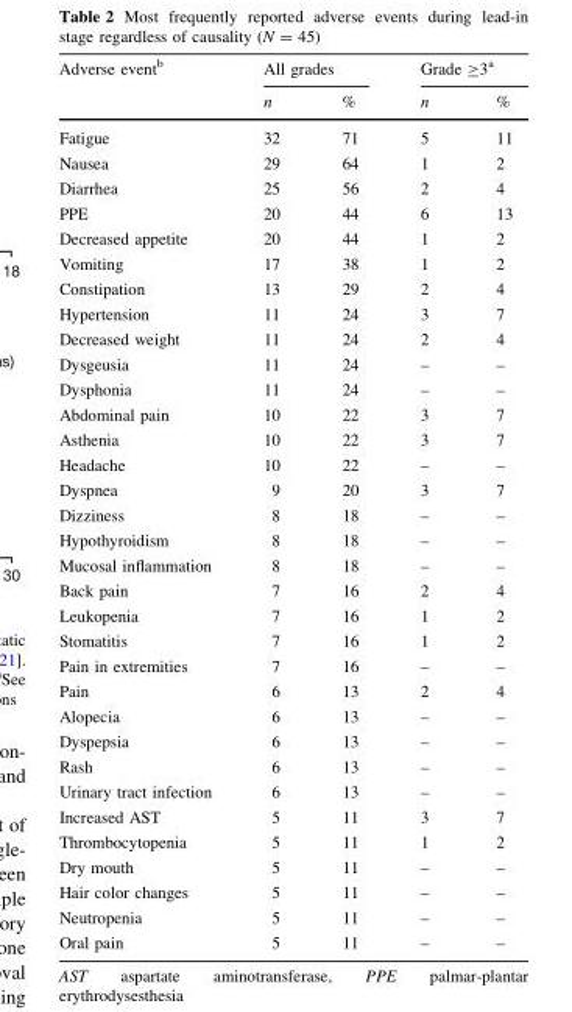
<table><thead><tr><td rowspan="2">Adverse event<sup>b</sup></td><td colspan="2">All grades</td><td colspan="2">Grade ≥3<sup>a</sup></td></tr><tr><td>n</td><td>%</td><td>n</td><td>%</td></tr></thead><tbody><tr><td>Fatigue</td><td>32</td><td>71</td><td>5</td><td>11</td></tr><tr><td>Nausea</td><td>29</td><td>64</td><td>1</td><td>2</td></tr><tr><td>Diarrhea</td><td>25</td><td>56</td><td>2</td><td>4</td></tr><tr><td>PPE</td><td>20</td><td>44</td><td>6</td><td>13</td></tr><tr><td>Decreased appetite</td><td>20</td><td>44</td><td>1</td><td>2</td></tr><tr><td>Vomiting</td><td>17</td><td>38</td><td>1</td><td>2</td></tr><tr><td>Constipation</td><td>13</td><td>29</td><td>2</td><td>4</td></tr><tr><td>Hypertension</td><td>11</td><td>24</td><td>3</td><td>7</td></tr><tr><td>Decreased weight</td><td>11</td><td>24</td><td>2</td><td>4</td></tr><tr><td>Dysgeusia</td><td>11</td><td>24</td><td>–</td><td>–</td></tr><tr><td>Dysphonia</td><td>11</td><td>24</td><td>–</td><td>–</td></tr><tr><td>Abdominal pain</td><td>10</td><td>22</td><td>3</td><td>7</td></tr><tr><td>Asthenia</td><td>10</td><td>22</td><td>3</td><td>7</td></tr><tr><td>Headache</td><td>10</td><td>22</td><td>–</td><td>–</td></tr><tr><td>Dyspnea</td><td>9</td><td>20</td><td>3</td><td>7</td></tr><tr><td>Dizziness</td><td>8</td><td>18</td><td>–</td><td>–</td></tr><tr><td>Hypothyroidism</td><td>8</td><td>18</td><td>–</td><td>–</td></tr><tr><td>Mucosal inflammation</td><td>8</td><td>18</td><td>–</td><td>–</td></tr><tr><td>Back pain</td><td>7</td><td>16</td><td>2</td><td>4</td></tr><tr><td>Leukopenia</td><td>7</td><td>16</td><td>1</td><td>2</td></tr><tr><td>Stomatitis</td><td>7</td><td>16</td><td>1</td><td>2</td></tr><tr><td>Pain in extremities</td><td>7</td><td>16</td><td>–</td><td>–</td></tr><tr><td>Pain</td><td>6</td><td>13</td><td>2</td><td>4</td></tr><tr><td>Alopecia</td><td>6</td><td>13</td><td>–</td><td>–</td></tr><tr><td>Dyspepsia</td><td>6</td><td>13</td><td>–</td><td>–</td></tr><tr><td>Rash</td><td>6</td><td>13</td><td>–</td><td>–</td></tr><tr><td>Urinary tract infection</td><td>6</td><td>13</td><td>–</td><td>–</td></tr><tr><td>Increased AST</td><td>5</td><td>11</td><td>3</td><td>7</td></tr><tr><td>Thrombocytopenia</td><td>5</td><td>11</td><td>1</td><td>2</td></tr><tr><td>Dry mouth</td><td>5</td><td>11</td><td>–</td><td>–</td></tr><tr><td>Hair color changes</td><td>5</td><td>11</td><td>–</td><td>–</td></tr><tr><td>Neutropenia</td><td>5</td><td>11</td><td>–</td><td>–</td></tr><tr><td>Oral pain</td><td>5</td><td>11</td><td>–</td><td>–</td></tr></tbody></table>